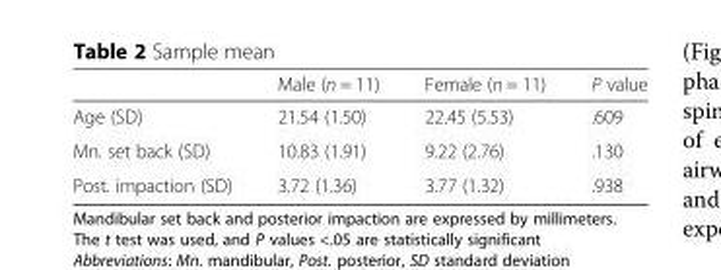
<table><thead><tr><td></td><td>Male (n = 11)</td><td>Female (n = 11)</td><td>P value</td></tr></thead><tbody><tr><td>Age (SD)</td><td>21.54 (1.50)</td><td>22.45 (5.53)</td><td>.609</td></tr><tr><td>Mn. set back (SD)</td><td>10.83 (1.91)</td><td>9.22 (2.76)</td><td>.130</td></tr><tr><td>Post. impaction (SD)</td><td>3.72 (1.36)</td><td>3.77 (1.32)</td><td>.938</td></tr></tbody></table>